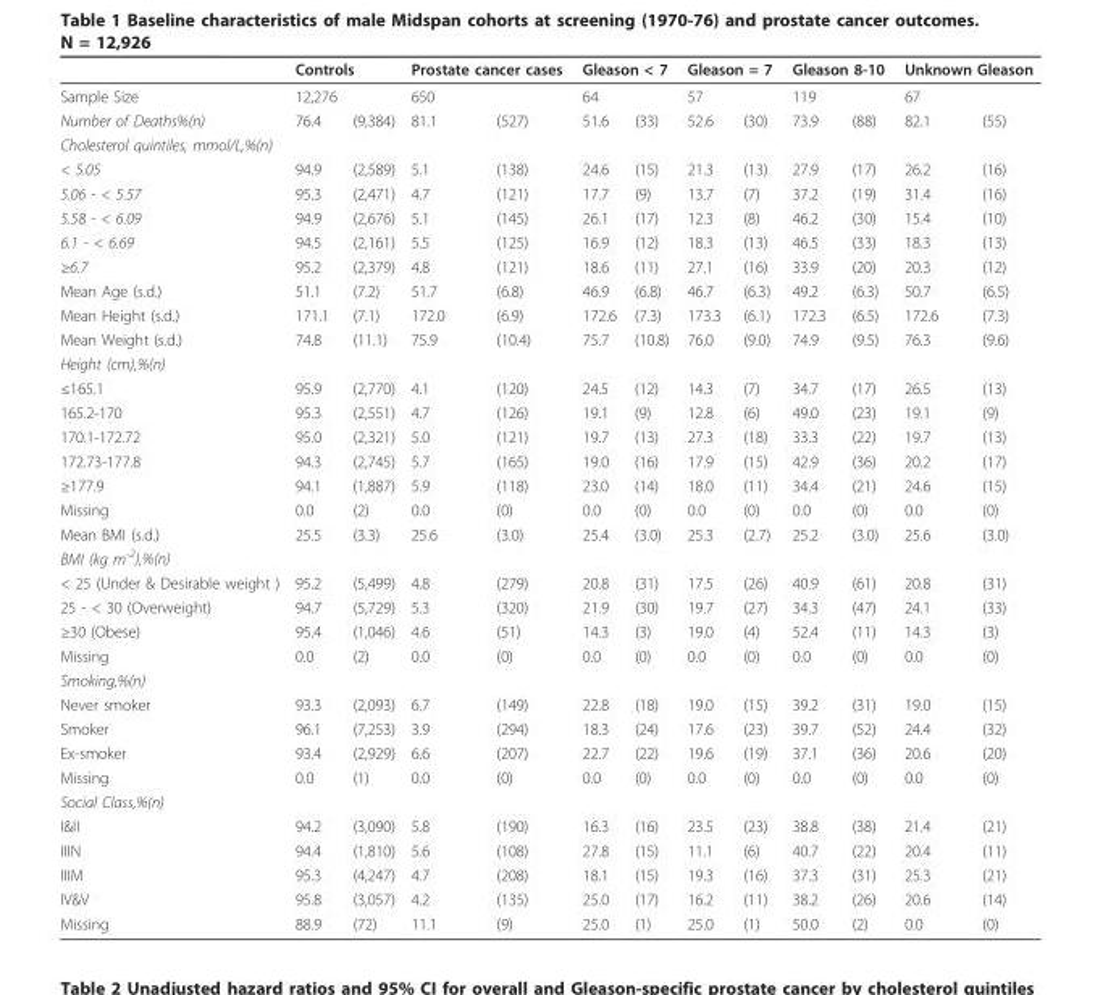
<table><thead><tr><td rowspan="2">Sample Size</td><td colspan="2">Controls</td><td colspan="2">Prostate cancer cases</td><td colspan="2">Gleason &lt; 7</td><td colspan="2">Gleason = 7</td><td colspan="2">Gleason 8-10</td><td colspan="2">Unknown Gleason</td></tr><tr><td>12,276</td><td></td><td>650</td><td></td><td>64</td><td></td><td>57</td><td></td><td>119</td><td></td><td>67</td><td></td></tr></thead><tbody><tr><td>Number of Deaths%(n)</td><td>76.4</td><td>(9,384)</td><td>81.1</td><td>(527)</td><td>51.6</td><td>(33)</td><td>52.6</td><td>(30)</td><td>73.9</td><td>(88)</td><td>82.1</td><td>(55)</td></tr><tr><td colspan="13">Cholesterol quintiles, mmol/L,%(n)</td></tr><tr><td>&lt; 5.05</td><td>94.9</td><td>(2,589)</td><td>5.1</td><td>(138)</td><td>24.6</td><td>(15)</td><td>21.3</td><td>(13)</td><td>27.9</td><td>(17)</td><td>26.2</td><td>(16)</td></tr><tr><td>5.06 - &lt; 5.57</td><td>95.3</td><td>(2,471)</td><td>4.7</td><td>(121)</td><td>17.7</td><td>(9)</td><td>13.7</td><td>(7)</td><td>37.2</td><td>(19)</td><td>31.4</td><td>(16)</td></tr><tr><td>5.58 - &lt; 6.09</td><td>94.9</td><td>(2,676)</td><td>5.1</td><td>(145)</td><td>26.1</td><td>(17)</td><td>12.3</td><td>(8)</td><td>46.2</td><td>(30)</td><td>15.4</td><td>(10)</td></tr><tr><td>6.1 - &lt; 6.69</td><td>94.5</td><td>(2,161)</td><td>5.5</td><td>(125)</td><td>16.9</td><td>(12)</td><td>18.3</td><td>(13)</td><td>46.5</td><td>(33)</td><td>18.3</td><td>(13)</td></tr><tr><td>≥6.7</td><td>95.2</td><td>(2,379)</td><td>4.8</td><td>(121)</td><td>18.6</td><td>(11)</td><td>27.1</td><td>(16)</td><td>33.9</td><td>(20)</td><td>20.3</td><td>(12)</td></tr><tr><td>Mean Age (s.d.)</td><td>51.1</td><td>(7.2)</td><td>51.7</td><td>(6.8)</td><td>46.9</td><td>(6.8)</td><td>46.7</td><td>(6.3)</td><td>49.2</td><td>(6.3)</td><td>50.7</td><td>(6.5)</td></tr><tr><td>Mean Height (s.d.)</td><td>171.1</td><td>(7.1)</td><td>172.0</td><td>(6.9)</td><td>172.6</td><td>(7.3)</td><td>173.3</td><td>(6.1)</td><td>172.3</td><td>(6.5)</td><td>172.6</td><td>(7.3)</td></tr><tr><td>Mean Weight (s.d.)</td><td>74.8</td><td>(11.1)</td><td>75.9</td><td>(10.4)</td><td>75.7</td><td>(10.8)</td><td>76.0</td><td>(9.0)</td><td>74.9</td><td>(9.5)</td><td>76.3</td><td>(9.6)</td></tr><tr><td colspan="13">Height (cm),%(n)</td></tr><tr><td>≤165.1</td><td>95.9</td><td>(2,770)</td><td>4.1</td><td>(120)</td><td>24.5</td><td>(12)</td><td>14.3</td><td>(7)</td><td>34.7</td><td>(17)</td><td>26.5</td><td>(13)</td></tr><tr><td>165.2-170</td><td>95.3</td><td>(2,551)</td><td>4.7</td><td>(126)</td><td>19.1</td><td>(9)</td><td>12.8</td><td>(6)</td><td>49.0</td><td>(23)</td><td>19.1</td><td>(9)</td></tr><tr><td>170.1-172.72</td><td>95.0</td><td>(2,321)</td><td>5.0</td><td>(121)</td><td>19.7</td><td>(13)</td><td>27.3</td><td>(18)</td><td>33.3</td><td>(22)</td><td>19.7</td><td>(13)</td></tr><tr><td>172.73-177.8</td><td>94.3</td><td>(2,745)</td><td>5.7</td><td>(165)</td><td>19.0</td><td>(16)</td><td>17.9</td><td>(15)</td><td>42.9</td><td>(36)</td><td>20.2</td><td>(17)</td></tr><tr><td>≥177.9</td><td>94.1</td><td>(1,887)</td><td>5.9</td><td>(118)</td><td>23.0</td><td>(14)</td><td>18.0</td><td>(11)</td><td>34.4</td><td>(21)</td><td>24.6</td><td>(15)</td></tr><tr><td>Missing</td><td>0.0</td><td>(2)</td><td>0.0</td><td>(0)</td><td>0.0</td><td>(0)</td><td>0.0</td><td>(0)</td><td>0.0</td><td>(0)</td><td>0.0</td><td>(0)</td></tr><tr><td>Mean BMI (s.d.)</td><td>25.5</td><td>(3.3)</td><td>25.6</td><td>(3.0)</td><td>25.4</td><td>(3.0)</td><td>25.3</td><td>(2.7)</td><td>25.2</td><td>(3.0)</td><td>25.6</td><td>(3.0)</td></tr><tr><td colspan="13">BMI (kg m<sup>-2</sup>),%(n)</td></tr><tr><td>&lt; 25 (Under &amp; Desirable weight )</td><td>95.2</td><td>(5,499)</td><td>4.8</td><td>(279)</td><td>20.8</td><td>(31)</td><td>17.5</td><td>(26)</td><td>40.9</td><td>(61)</td><td>20.8</td><td>(31)</td></tr><tr><td>25 - &lt; 30 (Overweight)</td><td>94.7</td><td>(5,729)</td><td>5.3</td><td>(320)</td><td>21.9</td><td>(30)</td><td>19.7</td><td>(27)</td><td>34.3</td><td>(47)</td><td>24.1</td><td>(33)</td></tr><tr><td>≥30 (Obese)</td><td>95.4</td><td>(1,046)</td><td>4.6</td><td>(51)</td><td>14.3</td><td>(3)</td><td>19.0</td><td>(4)</td><td>52.4</td><td>(11)</td><td>14.3</td><td>(3)</td></tr><tr><td>Missing</td><td>0.0</td><td>(2)</td><td>0.0</td><td>(0)</td><td>0.0</td><td>(0)</td><td>0.0</td><td>(0)</td><td>0.0</td><td>(0)</td><td>0.0</td><td>(0)</td></tr><tr><td colspan="13">Smoking,%(n)</td></tr><tr><td>Never smoker</td><td>93.3</td><td>(2,093)</td><td>6.7</td><td>(149)</td><td>22.8</td><td>(18)</td><td>19.0</td><td>(15)</td><td>39.2</td><td>(31)</td><td>19.0</td><td>(15)</td></tr><tr><td>Smoker</td><td>96.1</td><td>(7,253)</td><td>3.9</td><td>(294)</td><td>18.3</td><td>(24)</td><td>17.6</td><td>(23)</td><td>39.7</td><td>(52)</td><td>24.4</td><td>(32)</td></tr><tr><td>Ex-smoker</td><td>93.4</td><td>(2,929)</td><td>6.6</td><td>(207)</td><td>22.7</td><td>(22)</td><td>19.6</td><td>(19)</td><td>37.1</td><td>(36)</td><td>20.6</td><td>(20)</td></tr><tr><td>Missing</td><td>0.0</td><td>(1)</td><td>0.0</td><td>(0)</td><td>0.0</td><td>(0)</td><td>0.0</td><td>(0)</td><td>0.0</td><td>(0)</td><td>0.0</td><td>(0)</td></tr><tr><td colspan="13">Social Class,%(n)</td></tr><tr><td>I&amp;II</td><td>94.2</td><td>(3,090)</td><td>5.8</td><td>(190)</td><td>16.3</td><td>(16)</td><td>23.5</td><td>(23)</td><td>38.8</td><td>(38)</td><td>21.4</td><td>(21)</td></tr><tr><td>IIIN</td><td>94.4</td><td>(1,810)</td><td>5.6</td><td>(108)</td><td>27.8</td><td>(15)</td><td>11.1</td><td>(6)</td><td>40.7</td><td>(22)</td><td>20.4</td><td>(11)</td></tr><tr><td>IIIM</td><td>95.3</td><td>(4,247)</td><td>4.7</td><td>(208)</td><td>18.1</td><td>(15)</td><td>19.3</td><td>(16)</td><td>37.3</td><td>(31)</td><td>25.3</td><td>(21)</td></tr><tr><td>IV&amp;V</td><td>95.8</td><td>(3,057)</td><td>4.2</td><td>(135)</td><td>25.0</td><td>(17)</td><td>16.2</td><td>(11)</td><td>38.2</td><td>(26)</td><td>20.6</td><td>(14)</td></tr><tr><td>Missing</td><td>88.9</td><td>(72)</td><td>11.1</td><td>(9)</td><td>25.0</td><td>(1)</td><td>25.0</td><td>(1)</td><td>50.0</td><td>(2)</td><td>0.0</td><td>(0)</td></tr></tbody></table>